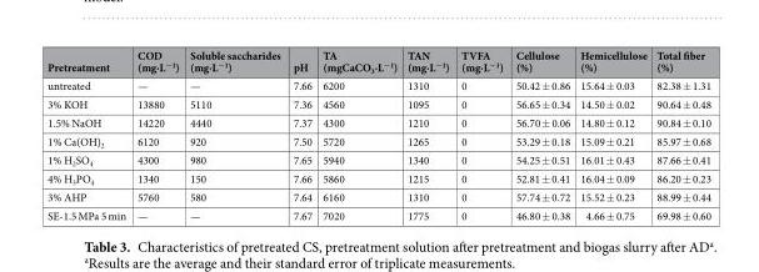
<table><thead><tr><td>Pretreatment</td><td>COD (mg·L<sup>−1</sup>)</td><td>Soluble saccharides (mg·L<sup>−1</sup>)</td><td>pH</td><td>TA (mgCaCO<sub>3</sub>·L<sup>−1</sup>)</td><td>TAN (mg·L<sup>−1</sup>)</td><td>TVFA (mg·L<sup>−1</sup>)</td><td>Cellulose (%)</td><td>Hemicellulose (%)</td><td>Total fiber (%)</td></tr></thead><tbody><tr><td>untreated</td><td>—</td><td>—</td><td>7.66</td><td>6200</td><td>1310</td><td>0</td><td>50.42 ± 0.86</td><td>15.64 ± 0.03</td><td>82.38 ± 1.31</td></tr><tr><td>3% KOH</td><td>13880</td><td>5110</td><td>7.36</td><td>4560</td><td>1095</td><td>0</td><td>56.65 ± 0.34</td><td>14.50 ± 0.02</td><td>90.64 ± 0.48</td></tr><tr><td>1.5% NaOH</td><td>14220</td><td>4440</td><td>7.37</td><td>4300</td><td>1210</td><td>0</td><td>56.70 ± 0.06</td><td>14.80 ± 0.12</td><td>90.84 ± 0.10</td></tr><tr><td>1% Ca(OH)<sub>2</sub></td><td>6120</td><td>920</td><td>7.50</td><td>5720</td><td>1265</td><td>0</td><td>53.29 ± 0.18</td><td>15.09 ± 0.21</td><td>85.97 ± 0.68</td></tr><tr><td>1% H<sub>2</sub>SO<sub>4</sub></td><td>4300</td><td>980</td><td>7.65</td><td>5940</td><td>1340</td><td>0</td><td>54.25 ± 0.51</td><td>16.01 ± 0.43</td><td>87.66 ± 0.41</td></tr><tr><td>4% H<sub>3</sub>PO<sub>4</sub></td><td>1340</td><td>150</td><td>7.66</td><td>5860</td><td>1215</td><td>0</td><td>52.81 ± 0.41</td><td>16.04 ± 0.09</td><td>86.20 ± 0.23</td></tr><tr><td>3% AHP</td><td>5760</td><td>580</td><td>7.64</td><td>6160</td><td>1310</td><td>0</td><td>57.74 ± 0.72</td><td>15.52 ± 0.23</td><td>88.99 ± 0.44</td></tr><tr><td>SE-1.5 MPa 5 min</td><td>—</td><td>—</td><td>7.67</td><td>7020</td><td>1775</td><td>0</td><td>46.80 ± 0.38</td><td>4.66 ± 0.75</td><td>69.98 ± 0.60</td></tr></tbody></table>